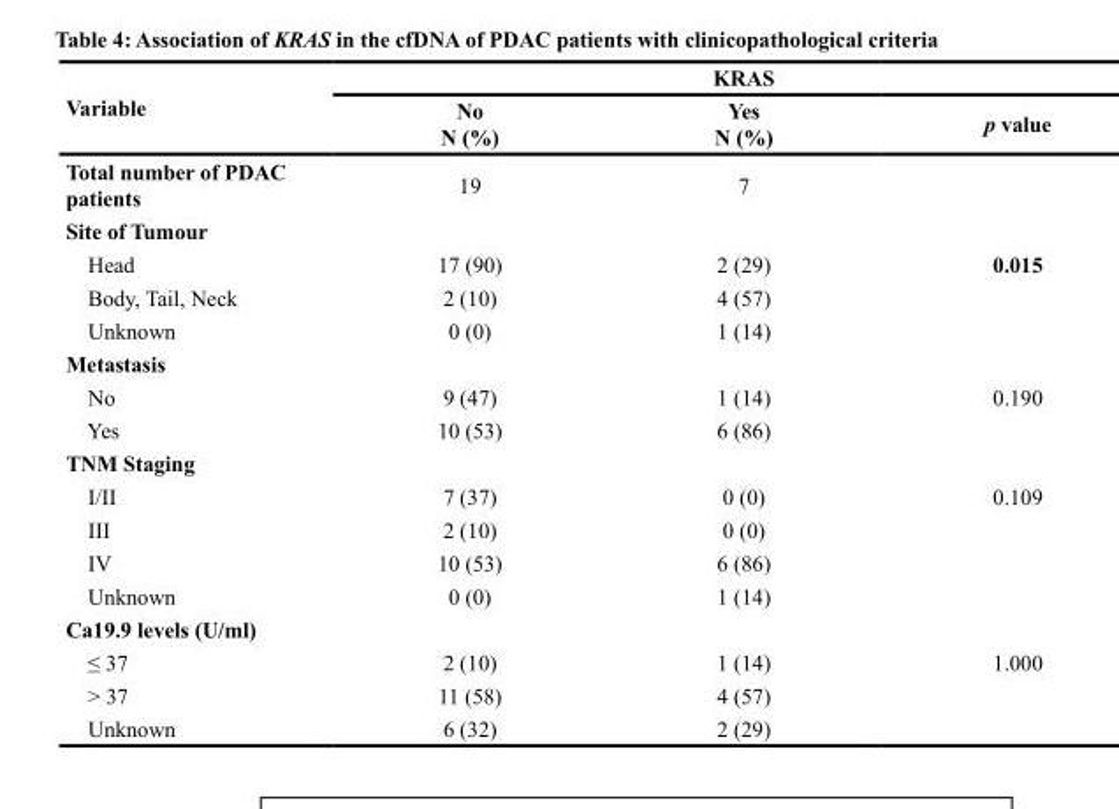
<table><thead><tr><td rowspan="2">Variable</td><td colspan="3">KRAS</td></tr><tr><td>No N (%)</td><td>Yes N (%)</td><td>p value</td></tr></thead><tbody><tr><td>Total number of PDAC patients</td><td>19</td><td>7</td><td></td></tr><tr><td colspan="4">Site of Tumour</td></tr><tr><td>Head</td><td>17 (90)</td><td>2 (29)</td><td>0.015</td></tr><tr><td>Body, Tail, Neck</td><td>2 (10)</td><td>4 (57)</td><td></td></tr><tr><td>Unknown</td><td>0 (0)</td><td>1 (14)</td><td></td></tr><tr><td colspan="4">Metastasis</td></tr><tr><td>No</td><td>9 (47)</td><td>1 (14)</td><td>0.190</td></tr><tr><td>Yes</td><td>10 (53)</td><td>6 (86)</td><td></td></tr><tr><td colspan="4">TNM Staging</td></tr><tr><td>I/II</td><td>7 (37)</td><td>0 (0)</td><td>0.109</td></tr><tr><td>III</td><td>2 (10)</td><td>0 (0)</td><td></td></tr><tr><td>IV</td><td>10 (53)</td><td>6 (86)</td><td></td></tr><tr><td>Unknown</td><td>0 (0)</td><td>1 (14)</td><td></td></tr><tr><td colspan="4">Ca19.9 levels (U/ml)</td></tr><tr><td>≤ 37</td><td>2 (10)</td><td>1 (14)</td><td>1.000</td></tr><tr><td>&gt; 37</td><td>11 (58)</td><td>4 (57)</td><td></td></tr><tr><td>Unknown</td><td>6 (32)</td><td>2 (29)</td><td></td></tr></tbody></table>